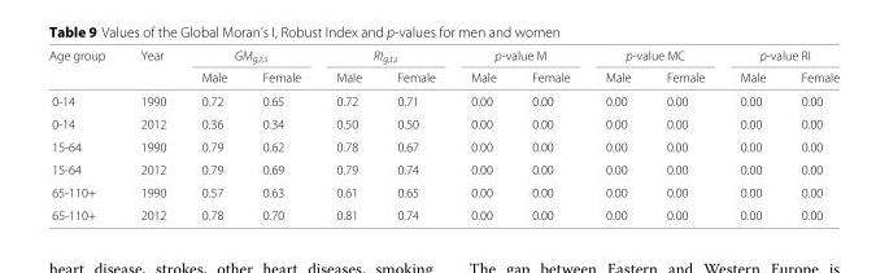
<table><thead><tr><td rowspan="2">Age group</td><td rowspan="2">Year</td><td colspan="2">GM<sub>g,t,s</sub></td><td colspan="2">RI<sub>g,t,s</sub></td><td colspan="2">p-value M</td><td colspan="2">p-value MC</td><td colspan="2">p-value RI</td></tr><tr><td>Male</td><td>Female</td><td>Male</td><td>Female</td><td>Male</td><td>Female</td><td>Male</td><td>Female</td><td>Male</td><td>Female</td></tr></thead><tbody><tr><td>0-14</td><td>1990</td><td>0.72</td><td>0.65</td><td>0.72</td><td>0.71</td><td>0.00</td><td>0.00</td><td>0.00</td><td>0.00</td><td>0.00</td><td>0.00</td></tr><tr><td>0-14</td><td>2012</td><td>0.36</td><td>0.34</td><td>0.50</td><td>0.50</td><td>0.00</td><td>0.00</td><td>0.00</td><td>0.00</td><td>0.00</td><td>0.00</td></tr><tr><td>15-64</td><td>1990</td><td>0.79</td><td>0.62</td><td>0.78</td><td>0.67</td><td>0.00</td><td>0.00</td><td>0.00</td><td>0.00</td><td>0.00</td><td>0.00</td></tr><tr><td>15-64</td><td>2012</td><td>0.79</td><td>0.69</td><td>0.79</td><td>0.74</td><td>0.00</td><td>0.00</td><td>0.00</td><td>0.00</td><td>0.00</td><td>0.00</td></tr><tr><td>65-110+</td><td>1990</td><td>0.57</td><td>0.63</td><td>0.61</td><td>0.65</td><td>0.00</td><td>0.00</td><td>0.00</td><td>0.00</td><td>0.00</td><td>0.00</td></tr><tr><td>65-110+</td><td>2012</td><td>0.78</td><td>0.70</td><td>0.81</td><td>0.74</td><td>0.00</td><td>0.00</td><td>0.00</td><td>0.00</td><td>0.00</td><td>0.00</td></tr></tbody></table>